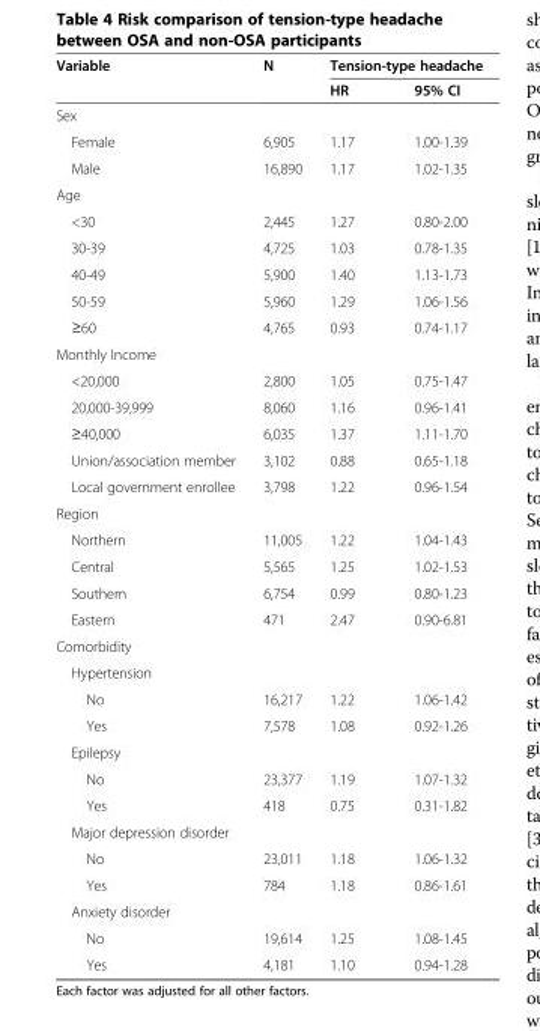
<table><thead><tr><td rowspan="2">Variable</td><td rowspan="2">N</td><td colspan="2">Tension-type headache</td></tr><tr><td>HR</td><td>95% CI</td></tr></thead><tbody><tr><td colspan="4">Sex</td></tr><tr><td>Female</td><td>6,905</td><td>1.17</td><td>1.00-1.39</td></tr><tr><td>Male</td><td>16,890</td><td>1.17</td><td>1.02-1.35</td></tr><tr><td colspan="4">Age</td></tr><tr><td>&lt;30</td><td>2,445</td><td>1.27</td><td>0.80-2.00</td></tr><tr><td>30-39</td><td>4,725</td><td>1.03</td><td>0.78-1.35</td></tr><tr><td>40-49</td><td>5,900</td><td>1.40</td><td>1.13-1.73</td></tr><tr><td>50-59</td><td>5,960</td><td>1.29</td><td>1.06-1.56</td></tr><tr><td>≥60</td><td>4,765</td><td>0.93</td><td>0.74-1.17</td></tr><tr><td colspan="4">Monthly Income</td></tr><tr><td>&lt;20,000</td><td>2,800</td><td>1.05</td><td>0.75-1.47</td></tr><tr><td>20,000-39,999</td><td>8,060</td><td>1.16</td><td>0.96-1.41</td></tr><tr><td>≥40,000</td><td>6,035</td><td>1.37</td><td>1.11-1.70</td></tr><tr><td>Union/association member</td><td>3,102</td><td>0.88</td><td>0.65-1.18</td></tr><tr><td>Local government enrollee</td><td>3,798</td><td>1.22</td><td>0.96-1.54</td></tr><tr><td colspan="4">Region</td></tr><tr><td>Northern</td><td>11,005</td><td>1.22</td><td>1.04-1.43</td></tr><tr><td>Central</td><td>5,565</td><td>1.25</td><td>1.02-1.53</td></tr><tr><td>Southern</td><td>6,754</td><td>0.99</td><td>0.80-1.23</td></tr><tr><td>Eastern</td><td>471</td><td>2.47</td><td>0.90-6.81</td></tr><tr><td colspan="4">Comorbidity</td></tr><tr><td colspan="4">Hypertension</td></tr><tr><td>No</td><td>16,217</td><td>1.22</td><td>1.06-1.42</td></tr><tr><td>Yes</td><td>7,578</td><td>1.08</td><td>0.92-1.26</td></tr><tr><td colspan="4">Epilepsy</td></tr><tr><td>No</td><td>23,377</td><td>1.19</td><td>1.07-1.32</td></tr><tr><td>Yes</td><td>418</td><td>0.75</td><td>0.31-1.82</td></tr><tr><td colspan="4">Major depression disorder</td></tr><tr><td>No</td><td>23,011</td><td>1.18</td><td>1.06-1.32</td></tr><tr><td>Yes</td><td>784</td><td>1.18</td><td>0.86-1.61</td></tr><tr><td colspan="4">Anxiety disorder</td></tr><tr><td>No</td><td>19,614</td><td>1.25</td><td>1.08-1.45</td></tr><tr><td>Yes</td><td>4,181</td><td>1.10</td><td>0.94-1.28</td></tr></tbody></table>